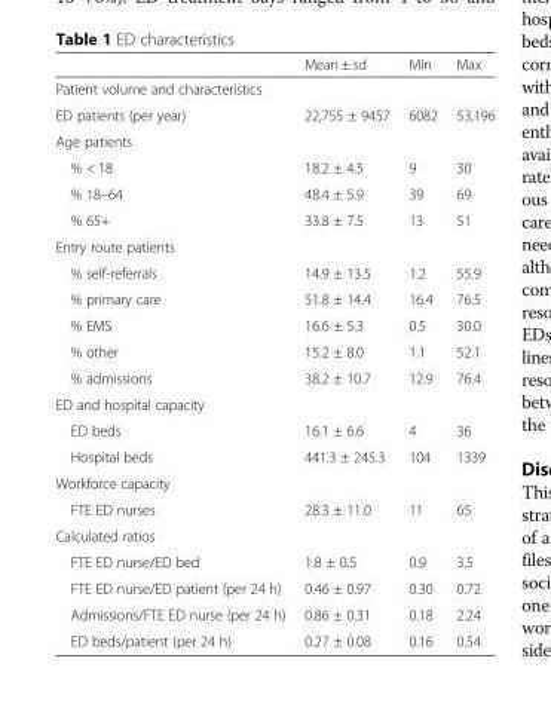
<table><thead><tr><td></td><td>Mean ± sd</td><td>Min</td><td>Max</td></tr></thead><tbody><tr><td colspan="4">Patient volume and characteristics</td></tr><tr><td>ED patients (per year)</td><td>22,755 ± 9457</td><td>6082</td><td>53,196</td></tr><tr><td colspan="4">Age patients</td></tr><tr><td>% &lt; 18</td><td>18.2 ± 4.5</td><td>9</td><td>30</td></tr><tr><td>% 18–64</td><td>48.4 ± 5.9</td><td>39</td><td>69</td></tr><tr><td>% 65+</td><td>33.8 ± 7.5</td><td>13</td><td>51</td></tr><tr><td colspan="4">Entry route patients</td></tr><tr><td>% self-referrals</td><td>14.9 ± 13.5</td><td>1.2</td><td>55.9</td></tr><tr><td>% primary care</td><td>51.8 ± 14.4</td><td>16.4</td><td>76.5</td></tr><tr><td>% EMS</td><td>16.6 ± 5.3</td><td>0.5</td><td>30.0</td></tr><tr><td>% other</td><td>15.2 ± 8.0</td><td>1.1</td><td>52.1</td></tr><tr><td>% admissions</td><td>38.2 ± 10.7</td><td>12.9</td><td>76.4</td></tr><tr><td colspan="4">ED and hospital capacity</td></tr><tr><td>ED beds</td><td>16.1 ± 6.6</td><td>4</td><td>36</td></tr><tr><td>Hospital beds</td><td>441.3 ± 245.3</td><td>104</td><td>1339</td></tr><tr><td colspan="4">Workforce capacity</td></tr><tr><td>FTE ED nurses</td><td>28.3 ± 11.0</td><td>11</td><td>65</td></tr><tr><td colspan="4">Calculated ratios</td></tr><tr><td>FTE ED nurse/ED bed</td><td>1.8 ± 0.5</td><td>0.9</td><td>3.5</td></tr><tr><td>FTE ED nurse/ED patient (per 24 h)</td><td>0.46 ± 0.97</td><td>0.30</td><td>0.72</td></tr><tr><td>Admissions/FTE ED nurse (per 24 h)</td><td>0.86 ± 0.31</td><td>0.18</td><td>2.24</td></tr><tr><td>ED beds/patient (per 24 h)</td><td>0.27 ± 0.08</td><td>0.16</td><td>0.54</td></tr></tbody></table>